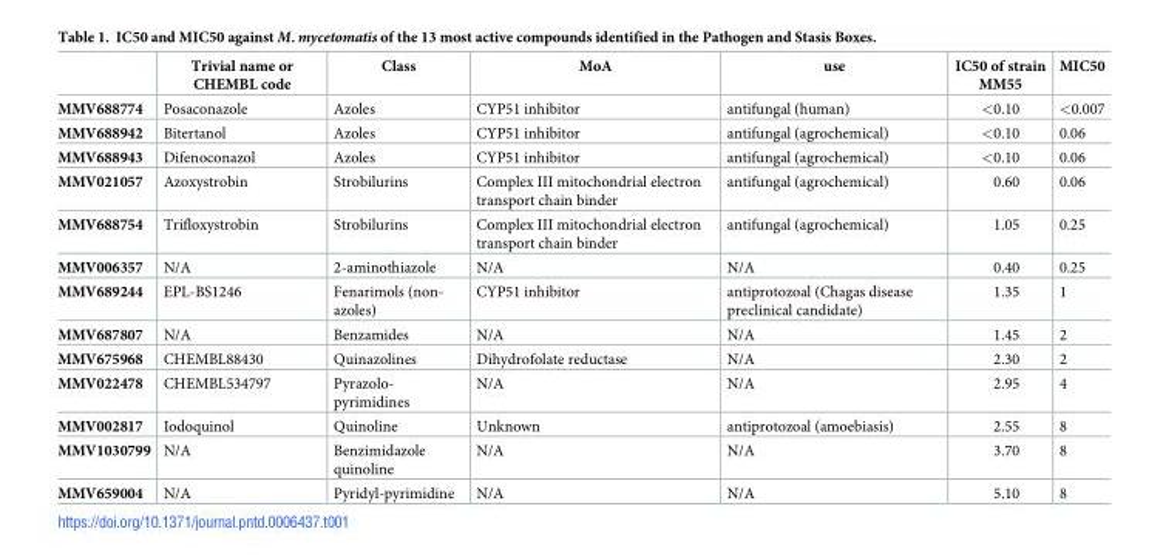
<table><thead><tr><td></td><td>Trivial name or CHEMBL code</td><td>Class</td><td>MoA</td><td>use</td><td>IC50 of strain MM55</td><td>MIC50</td></tr></thead><tbody><tr><td>MMV688774</td><td>Posaconazole</td><td>Azoles</td><td>CYP51 inhibitor</td><td>antifungal (human)</td><td>&lt;0.10</td><td>&lt;0.007</td></tr><tr><td>MMV688942</td><td>Bitertanol</td><td>Azoles</td><td>CYP51 inhibitor</td><td>antifungal (agrochemical)</td><td>&lt;0.10</td><td>0.06</td></tr><tr><td>MMV688943</td><td>Difenoconazol</td><td>Azoles</td><td>CYP51 inhibitor</td><td>antifungal (agrochemical)</td><td>&lt;0.10</td><td>0.06</td></tr><tr><td>MMV021057</td><td>Azoxystrobin</td><td>Strobilurins</td><td>Complex III mitochondrial electron transport chain binder</td><td>antifungal (agrochemical)</td><td>0.60</td><td>0.06</td></tr><tr><td>MMV688754</td><td>Trifloxystrobin</td><td>Strobilurins</td><td>Complex III mitochondrial electron transport chain binder</td><td>antifungal (agrochemical)</td><td>1.05</td><td>0.25</td></tr><tr><td>MMV006357</td><td>N/A</td><td>2-aminothiazole</td><td>N/A</td><td>N/A</td><td>0.40</td><td>0.25</td></tr><tr><td>MMV689244</td><td>EPL-BS1246</td><td>Fenarimols (non- azoles)</td><td>CYP51 inhibitor</td><td>antiprotozoal (Chagas disease preclinical candidate)</td><td>1.35</td><td>1</td></tr><tr><td>MMV687807</td><td>N/A</td><td>Benzamides</td><td>N/A</td><td>N/A</td><td>1.45</td><td>2</td></tr><tr><td>MMV675968</td><td>CHEMBL88430</td><td>Quinazolines</td><td>Dihydrofolate reductase</td><td>N/A</td><td>2.30</td><td>2</td></tr><tr><td>MMV022478</td><td>CHEMBL534797</td><td>Pyrazolo- pyrimidines</td><td>N/A</td><td>N/A</td><td>2.95</td><td>4</td></tr><tr><td>MMV002817</td><td>Iodoquinol</td><td>Quinoline</td><td>Unknown</td><td>antiprotozoal (amoebiasis)</td><td>2.55</td><td>8</td></tr><tr><td>MMV1030799</td><td>N/A</td><td>Benzimidazole quinoline</td><td>N/A</td><td>N/A</td><td>3.70</td><td>8</td></tr><tr><td>MMV659004</td><td>N/A</td><td>Pyridyl-pyrimidine</td><td>N/A</td><td>N/A</td><td>5.10</td><td>8</td></tr></tbody></table>